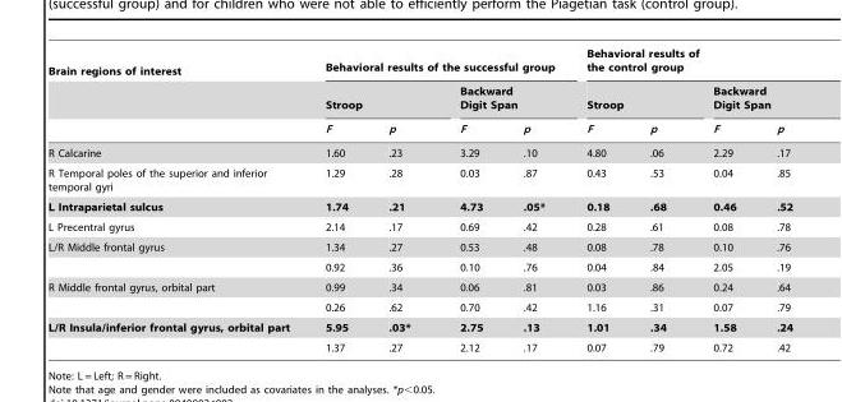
<table><thead><tr><td rowspan="3">Brain regions of interest</td><td colspan="4">Behavioral results of the successful group</td><td colspan="4">Behavioral results of the control group</td></tr><tr><td colspan="2">Stroop</td><td colspan="2">Backward Digit Span</td><td colspan="2">Stroop</td><td colspan="2">Backward Digit Span</td></tr><tr><td>F</td><td>p</td><td>F</td><td>p</td><td>F</td><td>p</td><td>F</td><td>p</td></tr></thead><tbody><tr><td>R Calcarine</td><td>1.60</td><td>.23</td><td>3.29</td><td>.10</td><td>4.80</td><td>.06</td><td>2.29</td><td>.17</td></tr><tr><td>R Temporal poles of the superior and inferior temporal gyri</td><td>1.29</td><td>.28</td><td>0.03</td><td>.87</td><td>0.43</td><td>.53</td><td>0.04</td><td>.85</td></tr><tr><td>L Intraparietal sulcus</td><td>1.74</td><td>.21</td><td>4.73</td><td>.05*</td><td>0.18</td><td>.68</td><td>0.46</td><td>.52</td></tr><tr><td>L Precentral gyrus</td><td>2.14</td><td>.17</td><td>0.69</td><td>.42</td><td>0.28</td><td>.61</td><td>0.08</td><td>.78</td></tr><tr><td rowspan="2">L/R Middle frontal gyrus</td><td>1.34</td><td>.27</td><td>0.53</td><td>.48</td><td>0.08</td><td>.78</td><td>0.10</td><td>.76</td></tr><tr><td>0.92</td><td>.36</td><td>0.10</td><td>.76</td><td>0.04</td><td>.84</td><td>2.05</td><td>.19</td></tr><tr><td rowspan="2">R Middle frontal gyrus, orbital part</td><td>0.99</td><td>.34</td><td>0.06</td><td>.81</td><td>0.03</td><td>.86</td><td>0.24</td><td>.64</td></tr><tr><td>0.26</td><td>.62</td><td>0.70</td><td>.42</td><td>1.16</td><td>.31</td><td>0.07</td><td>.79</td></tr><tr><td rowspan="2">L/R Insula/inferior frontal gyrus, orbital part</td><td>5.95</td><td>.03*</td><td>2.75</td><td>.13</td><td>1.01</td><td>.34</td><td>1.58</td><td>.24</td></tr><tr><td>1.37</td><td>.27</td><td>2.12</td><td>.17</td><td>0.07</td><td>.79</td><td>0.72</td><td>.42</td></tr></tbody></table>